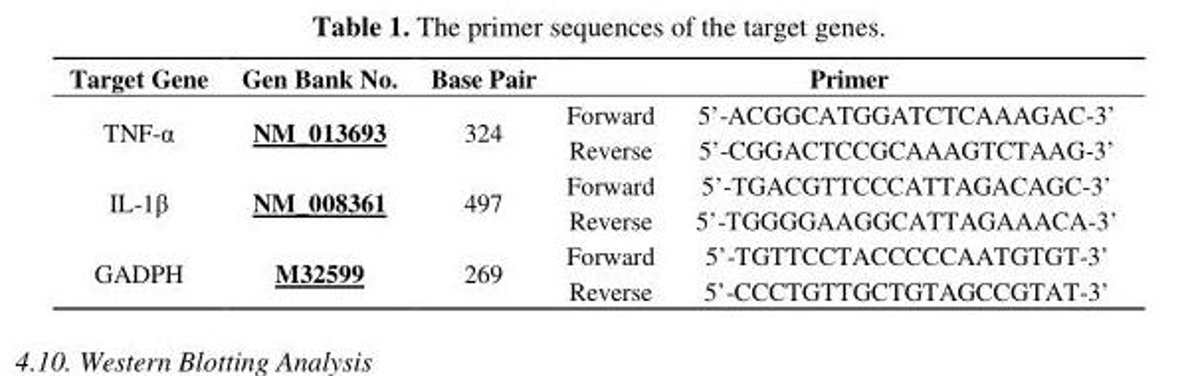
<table><thead><tr><td>Target Gene</td><td>Gen Bank No.</td><td>Base Pair</td><td></td><td>Primer</td></tr></thead><tbody><tr><td rowspan="2">TNF-α</td><td rowspan="2">NM_013693</td><td rowspan="2">324</td><td>Forward</td><td>5’-ACGGCATGGATCTCAAAGAC-3’</td></tr><tr><td>Reverse</td><td>5’-CGGACTCCGCAAAGTCTAAG-3’</td></tr><tr><td rowspan="2">IL-1β</td><td rowspan="2">NM_008361</td><td rowspan="2">497</td><td>Forward</td><td>5’-TGACGTTCCCATTAGACAGC-3’</td></tr><tr><td>Reverse</td><td>5’-TGGGGAAGGCATTAGAAACA-3’</td></tr><tr><td rowspan="2">GADPH</td><td rowspan="2">M32599</td><td rowspan="2">269</td><td>Forward</td><td>5’-TGTTCCTACCCCCAATGTGT-3’</td></tr><tr><td>Reverse</td><td>5’-CCCTGTTGCTGTAGCCGTAT-3’</td></tr></tbody></table>